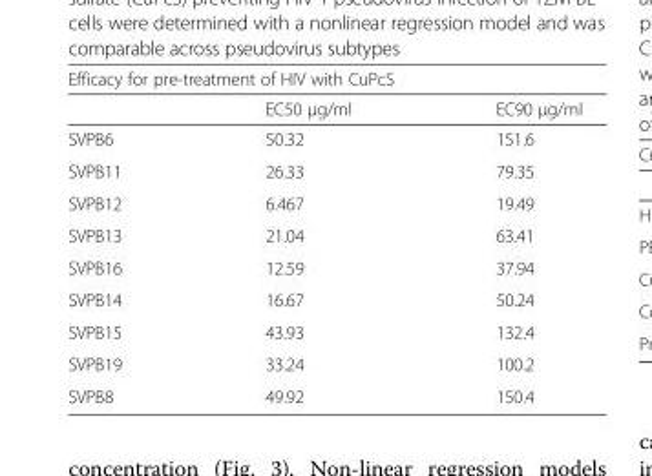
<table><thead><tr><td colspan="3">Efficacy for pre-treatment of HIV with CuPcS</td></tr><tr><td></td><td>EC50 μg/ml</td><td>EC90 μg/ml</td></tr></thead><tbody><tr><td>SVPB6</td><td>50.32</td><td>151.6</td></tr><tr><td>SVPB11</td><td>26.33</td><td>79.35</td></tr><tr><td>SVPB12</td><td>6.467</td><td>19.49</td></tr><tr><td>SVPB13</td><td>21.04</td><td>63.41</td></tr><tr><td>SVPB16</td><td>12.59</td><td>37.94</td></tr><tr><td>SVPB14</td><td>16.67</td><td>50.24</td></tr><tr><td>SVPB15</td><td>43.93</td><td>132.4</td></tr><tr><td>SVPB19</td><td>33.24</td><td>100.2</td></tr><tr><td>SVPB8</td><td>49.92</td><td>150.4</td></tr></tbody></table>